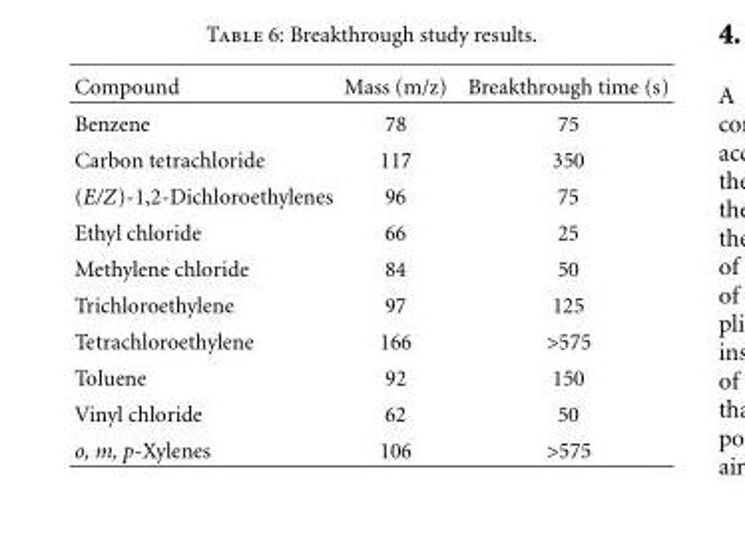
<table><thead><tr><td>Compound</td><td>Mass (m/z)</td><td>Breakthrough time (s)</td></tr></thead><tbody><tr><td>Benzene</td><td>78</td><td>75</td></tr><tr><td>Carbon tetrachloride</td><td>117</td><td>350</td></tr><tr><td>(E/Z)-1,2-Dichloroethylenes</td><td>96</td><td>75</td></tr><tr><td>Ethyl chloride</td><td>66</td><td>25</td></tr><tr><td>Methylene chloride</td><td>84</td><td>50</td></tr><tr><td>Trichloroethylene</td><td>97</td><td>125</td></tr><tr><td>Tetrachloroethylene</td><td>166</td><td>&gt;575</td></tr><tr><td>Toluene</td><td>92</td><td>150</td></tr><tr><td>Vinyl chloride</td><td>62</td><td>50</td></tr><tr><td>o, m, p-Xylenes</td><td>106</td><td>&gt;575</td></tr></tbody></table>